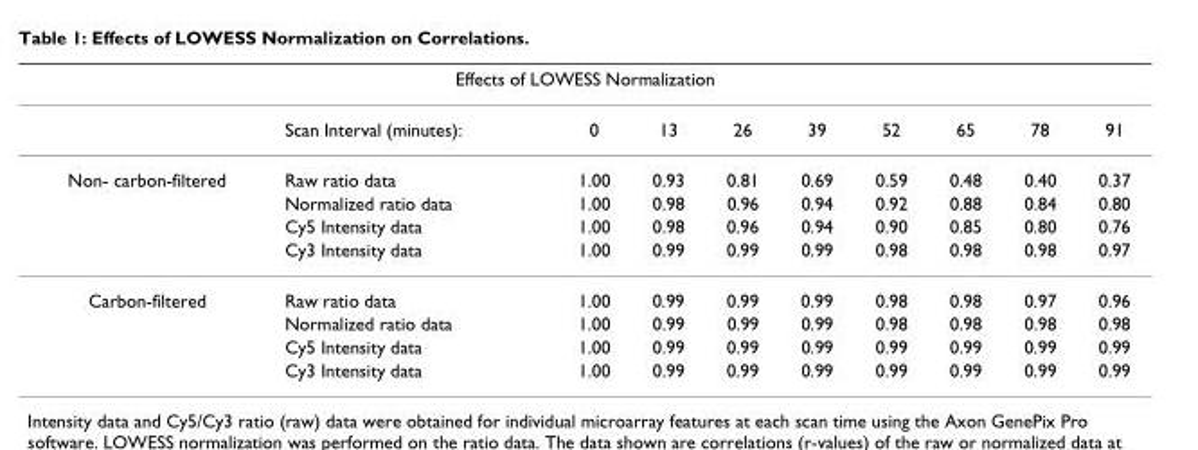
<table><thead><tr><td colspan="10">Effects of LOWESS Normalization</td></tr><tr><td></td><td>Scan Interval (minutes):</td><td>0</td><td>13</td><td>26</td><td>39</td><td>52</td><td>65</td><td>78</td><td>91</td></tr></thead><tbody><tr><td rowspan="4">Non- carbon-filtered</td><td>Raw ratio data</td><td>1.00</td><td>0.93</td><td>0.81</td><td>0.69</td><td>0.59</td><td>0.48</td><td>0.40</td><td>0.37</td></tr><tr><td>Normalized ratio data</td><td>1.00</td><td>0.98</td><td>0.96</td><td>0.94</td><td>0.92</td><td>0.88</td><td>0.84</td><td>0.80</td></tr><tr><td>Cy5 Intensity data</td><td>1.00</td><td>0.98</td><td>0.96</td><td>0.94</td><td>0.90</td><td>0.85</td><td>0.80</td><td>0.76</td></tr><tr><td>Cy3 Intensity data</td><td>1.00</td><td>0.99</td><td>0.99</td><td>0.99</td><td>0.98</td><td>0.98</td><td>0.98</td><td>0.97</td></tr><tr><td rowspan="4">Carbon-filtered</td><td>Raw ratio data</td><td>1.00</td><td>0.99</td><td>0.99</td><td>0.99</td><td>0.98</td><td>0.98</td><td>0.97</td><td>0.96</td></tr><tr><td>Normalized ratio data</td><td>1.00</td><td>0.99</td><td>0.99</td><td>0.99</td><td>0.98</td><td>0.98</td><td>0.98</td><td>0.98</td></tr><tr><td>Cy5 Intensity data</td><td>1.00</td><td>0.99</td><td>0.99</td><td>0.99</td><td>0.99</td><td>0.99</td><td>0.99</td><td>0.99</td></tr><tr><td>Cy3 Intensity data</td><td>1.00</td><td>0.99</td><td>0.99</td><td>0.99</td><td>0.99</td><td>0.99</td><td>0.99</td><td>0.99</td></tr></tbody></table>